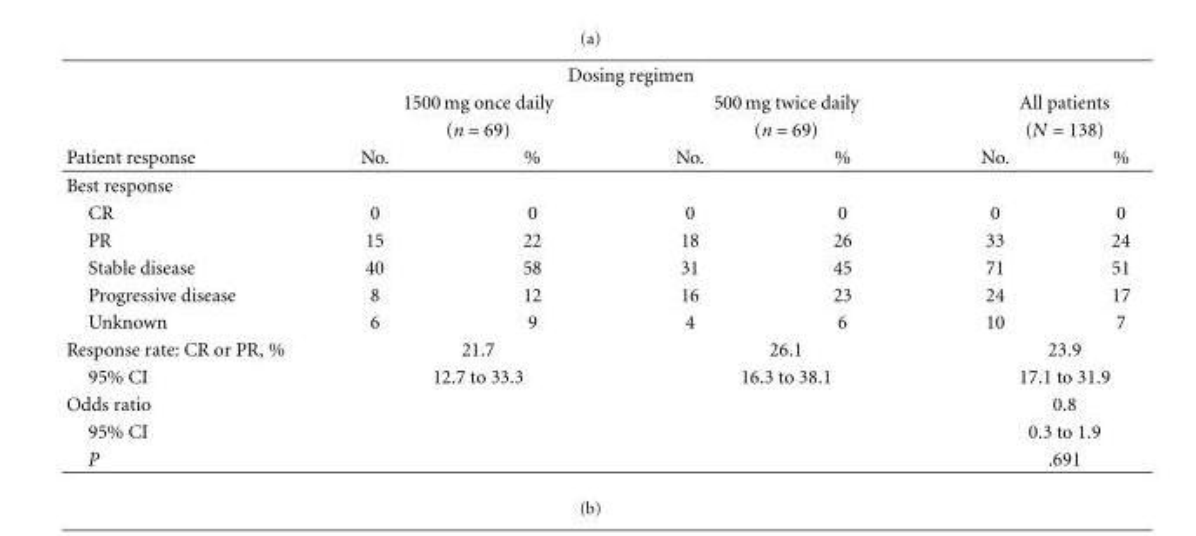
<table><thead><tr><td rowspan="4">Patient response</td><td colspan="4">Dosing regimen</td><td></td><td></td></tr><tr><td rowspan="2" colspan="2">1500 mg once daily (n = 69)</td><td rowspan="2" colspan="2">500 mg twice daily (n = 69)</td><td rowspan="2" colspan="2">All patients (N = 138)</td></tr><tr></tr><tr><td>No.</td><td>%</td><td>No.</td><td>%</td><td>No.</td><td>%</td></tr></thead><tbody><tr><td colspan="7">Best response</td></tr><tr><td>CR</td><td>0</td><td>0</td><td>0</td><td>0</td><td>0</td><td>0</td></tr><tr><td>PR</td><td>15</td><td>22</td><td>18</td><td>26</td><td>33</td><td>24</td></tr><tr><td>Stable disease</td><td>40</td><td>58</td><td>31</td><td>45</td><td>71</td><td>51</td></tr><tr><td>Progressive disease</td><td>8</td><td>12</td><td>16</td><td>23</td><td>24</td><td>17</td></tr><tr><td>Unknown</td><td>6</td><td>9</td><td>4</td><td>6</td><td>10</td><td>7</td></tr><tr><td>Response rate: CR or PR, %</td><td colspan="2">21.7</td><td colspan="2">26.1</td><td colspan="2">23.9</td></tr><tr><td>95% CI</td><td colspan="2">12.7 to 33.3</td><td colspan="2">16.3 to 38.1</td><td colspan="2">17.1 to 31.9</td></tr><tr><td>Odds ratio</td><td></td><td></td><td></td><td></td><td colspan="2">0.8</td></tr><tr><td>95% CI</td><td></td><td></td><td></td><td></td><td colspan="2">0.3 to 1.9</td></tr><tr><td>P</td><td></td><td></td><td></td><td></td><td colspan="2">.691</td></tr></tbody></table>